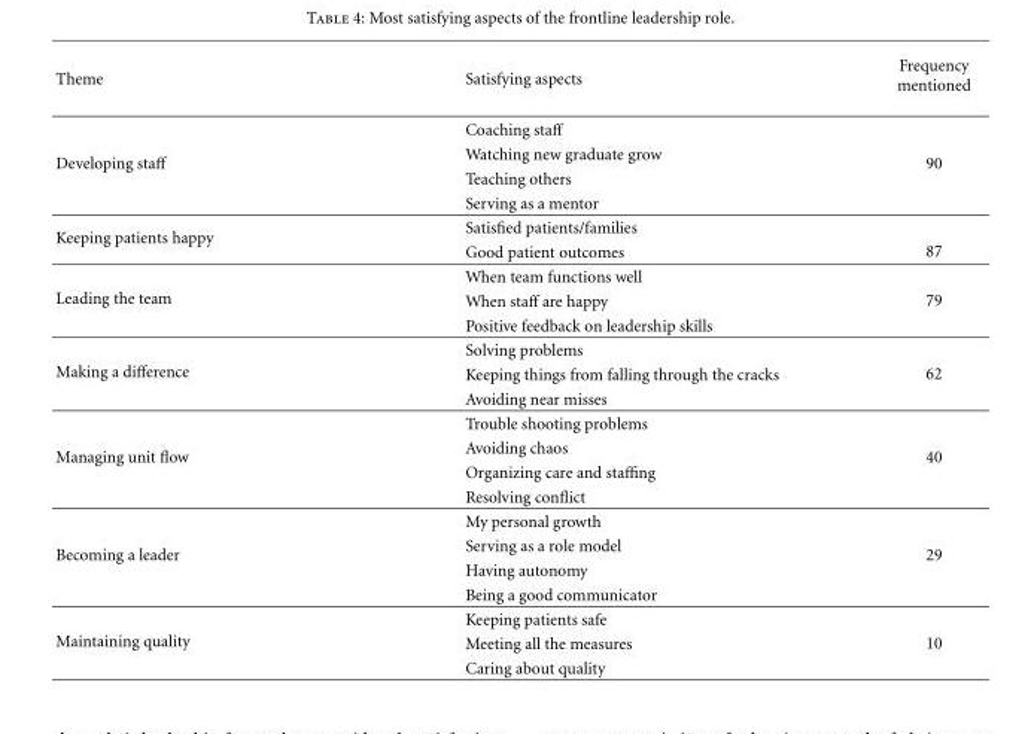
<table><thead><tr><td>Theme</td><td>Satisfying aspects</td><td>Frequency mentioned</td></tr></thead><tbody><tr><td rowspan="4">Developing staff</td><td>Coaching staff</td><td rowspan="4">90</td></tr><tr><td>Watching new graduate grow</td></tr><tr><td>Teaching others</td></tr><tr><td>Serving as a mentor</td></tr><tr><td rowspan="2">Keeping patients happy</td><td>Satisfied patients/families</td><td rowspan="2">87</td></tr><tr><td>Good patient outcomes</td></tr><tr><td rowspan="3">Leading the team</td><td>When team functions well</td><td rowspan="3">79</td></tr><tr><td>When staff are happy</td></tr><tr><td>Positive feedback on leadership skills</td></tr><tr><td rowspan="3">Making a difference</td><td>Solving problems</td><td rowspan="3">62</td></tr><tr><td>Keeping things from falling through the cracks</td></tr><tr><td>Avoiding near misses</td></tr><tr><td rowspan="4">Managing unit flow</td><td>Trouble shooting problems</td><td rowspan="4">40</td></tr><tr><td>Avoiding chaos</td></tr><tr><td>Organizing care and staffing</td></tr><tr><td>Resolving conflict</td></tr><tr><td rowspan="4">Becoming a leader</td><td>My personal growth</td><td rowspan="4">29</td></tr><tr><td>Serving as a role model</td></tr><tr><td>Having autonomy</td></tr><tr><td>Being a good communicator</td></tr><tr><td rowspan="3">Maintaining quality</td><td>Keeping patients safe</td><td rowspan="3">10</td></tr><tr><td>Meeting all the measures</td></tr><tr><td>Caring about quality</td></tr></tbody></table>